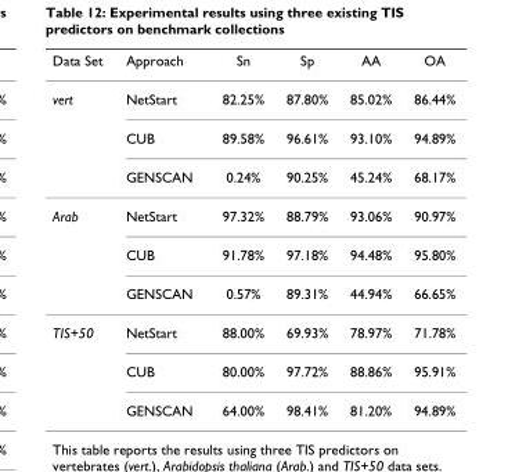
<table><thead><tr><td>Data Set</td><td>Approach</td><td>Sn</td><td>Sp</td><td>AA</td><td>OA</td></tr></thead><tbody><tr><td rowspan="3">vert</td><td>NetStart</td><td>82.25%</td><td>87.80%</td><td>85.02%</td><td>86.44%</td></tr><tr><td>CUB</td><td>89.58%</td><td>96.61%</td><td>93.10%</td><td>94.89%</td></tr><tr><td>GENSCAN</td><td>0.24%</td><td>90.25%</td><td>45.24%</td><td>68.17%</td></tr><tr><td rowspan="3">Arab</td><td>NetStart</td><td>97.32%</td><td>88.79%</td><td>93.06%</td><td>90.97%</td></tr><tr><td>CUB</td><td>91.78%</td><td>97.18%</td><td>94.48%</td><td>95.80%</td></tr><tr><td>GENSCAN</td><td>0.57%</td><td>89.31%</td><td>44.94%</td><td>66.65%</td></tr><tr><td rowspan="3">TIS+50</td><td>NetStart</td><td>88.00%</td><td>69.93%</td><td>78.97%</td><td>71.78%</td></tr><tr><td>CUB</td><td>80.00%</td><td>97.72%</td><td>88.86%</td><td>95.91%</td></tr><tr><td>GENSCAN</td><td>64.00%</td><td>98.41%</td><td>81.20%</td><td>94.89%</td></tr></tbody></table>